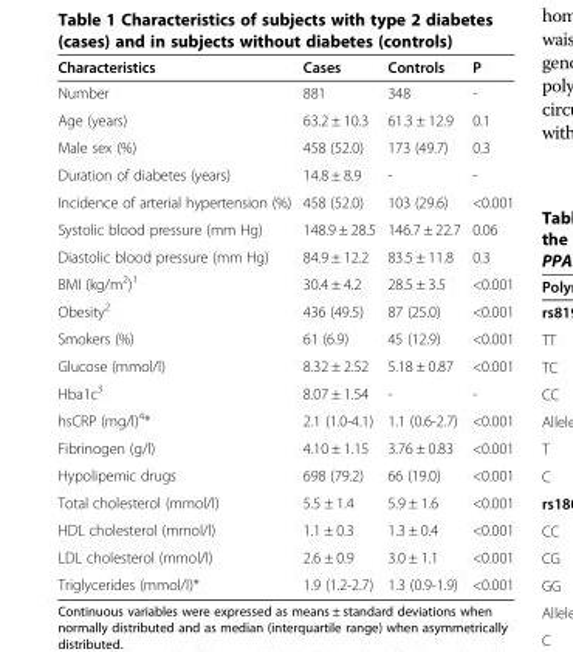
<table><thead><tr><td>Characteristics</td><td>Cases</td><td>Controls</td><td>P</td></tr></thead><tbody><tr><td>Number</td><td>881</td><td>348</td><td>-</td></tr><tr><td>Age (years)</td><td>63.2 ± 10.3</td><td>61.3 ± 12.9</td><td>0.1</td></tr><tr><td>Male sex (%)</td><td>458 (52.0)</td><td>173 (49.7)</td><td>0.3</td></tr><tr><td>Duration of diabetes (years)</td><td>14.8 ± 8.9</td><td>-</td><td>-</td></tr><tr><td>Incidence of arterial hypertension (%)</td><td>458 (52.0)</td><td>103 (29.6)</td><td>&lt;0.001</td></tr><tr><td>Systolic blood pressure (mm Hg)</td><td>148.9 ± 28.5</td><td>146.7 ± 22.7</td><td>0.06</td></tr><tr><td>Diastolic blood pressure (mm Hg)</td><td>84.9 ± 12.2</td><td>83.5 ± 11.8</td><td>0.3</td></tr><tr><td>BMI (kg/m<sup>2</sup>)<sup>1</sup></td><td>30.4 ± 4.2</td><td>28.5 ± 3.5</td><td>&lt;0.001</td></tr><tr><td>Obesity<sup>2</sup></td><td>436 (49.5)</td><td>87 (25.0)</td><td>&lt;0.001</td></tr><tr><td>Smokers (%)</td><td>61 (6.9)</td><td>45 (12.9)</td><td>&lt;0.001</td></tr><tr><td>Glucose (mmol/l)</td><td>8.32 ± 2.52</td><td>5.18 ± 0.87</td><td>&lt;0.001</td></tr><tr><td>Hba1c<sup>3</sup></td><td>8.07 ± 1.54</td><td>-</td><td>-</td></tr><tr><td>hsCRP (mg/l)<sup>4</sup>*</td><td>2.1 (1.0-4.1)</td><td>1.1 (0.6-2.7)</td><td>&lt;0.001</td></tr><tr><td>Fibrinogen (g/l)</td><td>4.10 ± 1.15</td><td>3.76 ± 0.83</td><td>&lt;0.001</td></tr><tr><td>Hypolipemic drugs</td><td>698 (79.2)</td><td>66 (19.0)</td><td>&lt;0.001</td></tr><tr><td>Total cholesterol (mmol/l)</td><td>5.5 ± 1.4</td><td>5.9 ± 1.6</td><td>&lt;0.001</td></tr><tr><td>HDL cholesterol (mmol/l)</td><td>1.1 ± 0.3</td><td>1.3 ± 0.4</td><td>&lt;0.001</td></tr><tr><td>LDL cholesterol (mmol/l)</td><td>2.6 ± 0.9</td><td>3.0 ± 1.1</td><td>&lt;0.001</td></tr><tr><td>Triglycerides (mmol/l)*</td><td>1.9 (1.2-2.7)</td><td>1.3 (0.9-1.9)</td><td>&lt;0.001</td></tr></tbody></table>